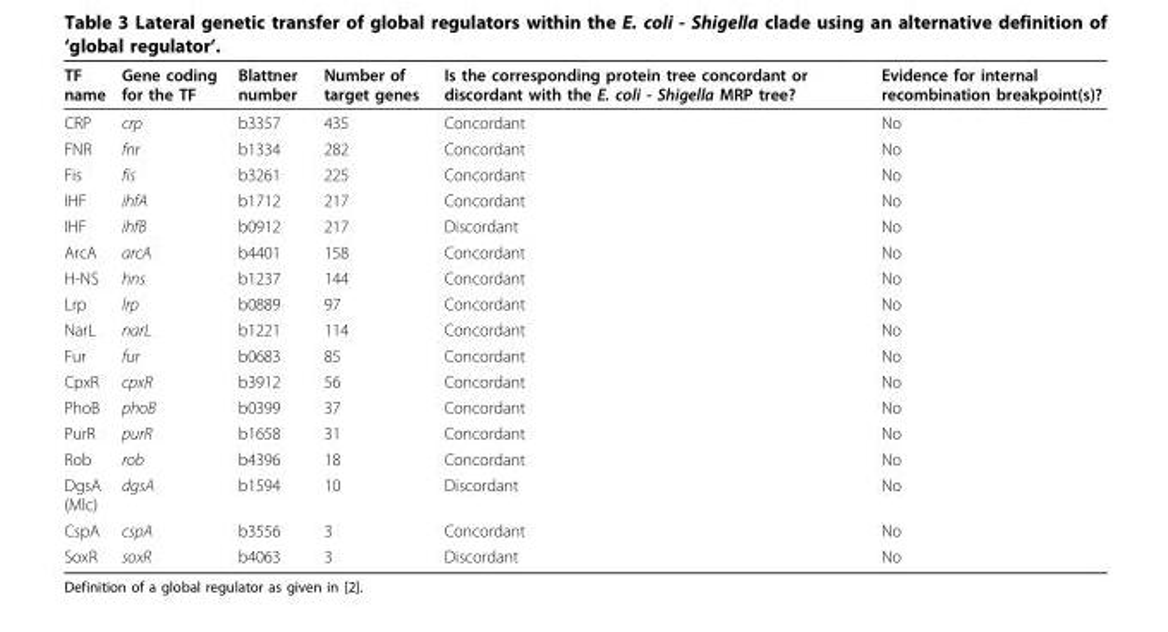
<table><thead><tr><td>TF name</td><td>Gene coding for the TF</td><td>Blattner number</td><td>Number of target genes</td><td>Is the corresponding protein tree concordant or discordant with the E. coli - Shigella MRP tree?</td><td>Evidence for internal recombination breakpoint(s)?</td></tr></thead><tbody><tr><td>CRP</td><td>crp</td><td>b3357</td><td>435</td><td>Concordant</td><td>No</td></tr><tr><td>FNR</td><td>fnr</td><td>b1334</td><td>282</td><td>Concordant</td><td>No</td></tr><tr><td>Fis</td><td>fis</td><td>b3261</td><td>225</td><td>Concordant</td><td>No</td></tr><tr><td>IHF</td><td>ihfA</td><td>b1712</td><td>217</td><td>Concordant</td><td>No</td></tr><tr><td>IHF</td><td>ihfB</td><td>b0912</td><td>217</td><td>Discordant</td><td>No</td></tr><tr><td>ArcA</td><td>arcA</td><td>b4401</td><td>158</td><td>Concordant</td><td>No</td></tr><tr><td>H-NS</td><td>hns</td><td>b1237</td><td>144</td><td>Concordant</td><td>No</td></tr><tr><td>Lrp</td><td>lrp</td><td>b0889</td><td>97</td><td>Concordant</td><td>No</td></tr><tr><td>NarL</td><td>narL</td><td>b1221</td><td>114</td><td>Concordant</td><td>No</td></tr><tr><td>Fur</td><td>fur</td><td>b0683</td><td>85</td><td>Concordant</td><td>No</td></tr><tr><td>CpxR</td><td>cpxR</td><td>b3912</td><td>56</td><td>Concordant</td><td>No</td></tr><tr><td>PhoB</td><td>phoB</td><td>b0399</td><td>37</td><td>Concordant</td><td>No</td></tr><tr><td>PurR</td><td>purR</td><td>b1658</td><td>31</td><td>Concordant</td><td>No</td></tr><tr><td>Rob</td><td>rob</td><td>b4396</td><td>18</td><td>Concordant</td><td>No</td></tr><tr><td>DgsA (Mlc)</td><td>dgsA</td><td>b1594</td><td>10</td><td>Discordant</td><td>No</td></tr><tr><td>CspA</td><td>cspA</td><td>b3556</td><td>3</td><td>Concordant</td><td>No</td></tr><tr><td>SoxR</td><td>soxR</td><td>b4063</td><td>3</td><td>Discordant</td><td>No</td></tr></tbody></table>